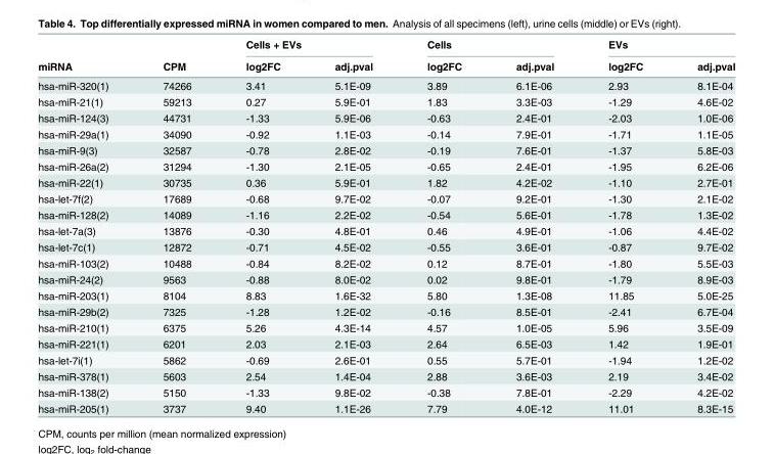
<table><thead><tr><td rowspan="2">miRNA</td><td rowspan="2">CPM</td><td colspan="2">Cells + EVs</td><td colspan="2">Cells</td><td colspan="2">EVs</td></tr><tr><td>log2FC</td><td>adj.pval</td><td>log2FC</td><td>adj.pval</td><td>log2FC</td><td>adj.pval</td></tr></thead><tbody><tr><td>hsa-miR-320(1)</td><td>74266</td><td>3.41</td><td>5.1E-09</td><td>3.89</td><td>6.1E-06</td><td>2.93</td><td>8.1E-04</td></tr><tr><td>hsa-miR-21(1)</td><td>59213</td><td>0.27</td><td>5.9E-01</td><td>1.83</td><td>3.3E-03</td><td>-1.29</td><td>4.6E-02</td></tr><tr><td>hsa-miR-124(3)</td><td>44731</td><td>-1.33</td><td>5.9E-06</td><td>-0.63</td><td>2.4E-01</td><td>-2.03</td><td>1.0E-06</td></tr><tr><td>hsa-miR-29a(1)</td><td>34090</td><td>-0.92</td><td>1.1E-03</td><td>-0.14</td><td>7.9E-01</td><td>-1.71</td><td>1.1E-05</td></tr><tr><td>hsa-miR-9(3)</td><td>32587</td><td>-0.78</td><td>2.8E-02</td><td>-0.19</td><td>7.6E-01</td><td>-1.37</td><td>5.8E-03</td></tr><tr><td>hsa-miR-26a(2)</td><td>31294</td><td>-1.30</td><td>2.1E-05</td><td>-0.65</td><td>2.4E-01</td><td>-1.95</td><td>6.2E-06</td></tr><tr><td>hsa-miR-22(1)</td><td>30735</td><td>0.36</td><td>5.9E-01</td><td>1.82</td><td>4.2E-02</td><td>-1.10</td><td>2.7E-01</td></tr><tr><td>hsa-let-7f(2)</td><td>17689</td><td>-0.68</td><td>9.7E-02</td><td>-0.07</td><td>9.2E-01</td><td>-1.30</td><td>2.1E-02</td></tr><tr><td>hsa-miR-128(2)</td><td>14089</td><td>-1.16</td><td>2.2E-02</td><td>-0.54</td><td>5.6E-01</td><td>-1.78</td><td>1.3E-02</td></tr><tr><td>hsa-let-7a(3)</td><td>13876</td><td>-0.30</td><td>4.8E-01</td><td>0.46</td><td>4.9E-01</td><td>-1.06</td><td>4.4E-02</td></tr><tr><td>hsa-let-7c(1)</td><td>12872</td><td>-0.71</td><td>4.5E-02</td><td>-0.55</td><td>3.6E-01</td><td>-0.87</td><td>9.7E-02</td></tr><tr><td>hsa-miR-103(2)</td><td>10488</td><td>-0.84</td><td>8.2E-02</td><td>0.12</td><td>8.7E-01</td><td>-1.80</td><td>5.5E-03</td></tr><tr><td>hsa-miR-24(2)</td><td>9563</td><td>-0.88</td><td>8.0E-02</td><td>0.02</td><td>9.8E-01</td><td>-1.79</td><td>8.9E-03</td></tr><tr><td>hsa-miR-203(1)</td><td>8104</td><td>8.83</td><td>1.6E-32</td><td>5.80</td><td>1.3E-08</td><td>11.85</td><td>5.0E-25</td></tr><tr><td>hsa-miR-29b(2)</td><td>7325</td><td>-1.28</td><td>1.2E-02</td><td>-0.16</td><td>8.5E-01</td><td>-2.41</td><td>6.7E-04</td></tr><tr><td>hsa-miR-210(1)</td><td>6375</td><td>5.26</td><td>4.3E-14</td><td>4.57</td><td>1.0E-05</td><td>5.96</td><td>3.5E-09</td></tr><tr><td>hsa-miR-221(1)</td><td>6201</td><td>2.03</td><td>2.1E-03</td><td>2.64</td><td>6.5E-03</td><td>1.42</td><td>1.9E-01</td></tr><tr><td>hsa-let-7i(1)</td><td>5862</td><td>-0.69</td><td>2.6E-01</td><td>0.55</td><td>5.7E-01</td><td>-1.94</td><td>1.2E-02</td></tr><tr><td>hsa-miR-378(1)</td><td>5603</td><td>2.54</td><td>1.4E-04</td><td>2.88</td><td>3.6E-03</td><td>2.19</td><td>3.4E-02</td></tr><tr><td>hsa-miR-138(2)</td><td>5150</td><td>-1.33</td><td>9.8E-02</td><td>-0.38</td><td>7.8E-01</td><td>-2.29</td><td>4.2E-02</td></tr><tr><td>hsa-miR-205(1)</td><td>3737</td><td>9.40</td><td>1.1E-26</td><td>7.79</td><td>4.0E-12</td><td>11.01</td><td>8.3E-15</td></tr></tbody></table>